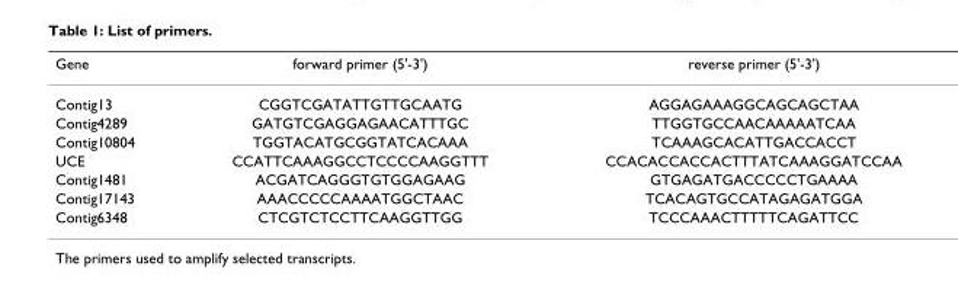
<table><thead><tr><td>Gene</td><td>forward primer (5&#x27;-3&#x27;)</td><td>reverse primer (5&#x27;-3&#x27;)</td></tr></thead><tbody><tr><td>Contig13</td><td>CGGTCGATATTGTTGCAATG</td><td>AGGAGAAAGGCAGCAGCTAA</td></tr><tr><td>Contig4289</td><td>GATGTCGAGGAGAACATTTGC</td><td>TTGGTGCCAACAAAAATCAA</td></tr><tr><td>Contig10804</td><td>TGGTACATGCGGTATCACAAA</td><td>TCAAAGCACATTGACCACCT</td></tr><tr><td>UCE</td><td>CCATTCAAAGGCCTCCCCAAGGTTT</td><td>CCACACCACCACTTTATCAAAGGATCCAA</td></tr><tr><td>Contig1481</td><td>ACGATCAGGGTGTGGAGAAG</td><td>GTGAGATGACCCCCTGAAAA</td></tr><tr><td>Contig17143</td><td>AAACCCCCAAAATGGCTAAC</td><td>TCACAGTGCCATAGAGATGGA</td></tr><tr><td>Contig6348</td><td>CTCGTCTCCTTCAAGGTTGG</td><td>TCCCAAACTTTTTCAGATTCC</td></tr></tbody></table>